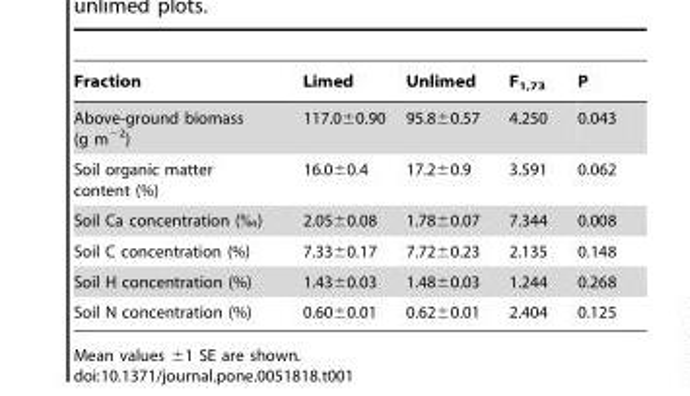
<table><thead><tr><td>Fraction</td><td>Limed</td><td>Unlimed</td><td>F<sub>1,73</sub></td><td>P</td></tr></thead><tbody><tr><td>Above-ground biomass (g m<sup>−2</sup>)</td><td>117.0±0.90</td><td>95.8±0.57</td><td>4.250</td><td>0.043</td></tr><tr><td>Soil organic matter content (%)</td><td>16.0±0.4</td><td>17.2±0.9</td><td>3.591</td><td>0.062</td></tr><tr><td>Soil Ca concentration (‰)</td><td>2.05±0.08</td><td>1.78±0.07</td><td>7.344</td><td>0.008</td></tr><tr><td>Soil C concentration (%)</td><td>7.33±0.17</td><td>7.72±0.23</td><td>2.135</td><td>0.148</td></tr><tr><td>Soil H concentration (%)</td><td>1.43±0.03</td><td>1.48±0.03</td><td>1.244</td><td>0.268</td></tr><tr><td>Soil N concentration (%)</td><td>0.60±0.01</td><td>0.62±0.01</td><td>2.404</td><td>0.125</td></tr></tbody></table>